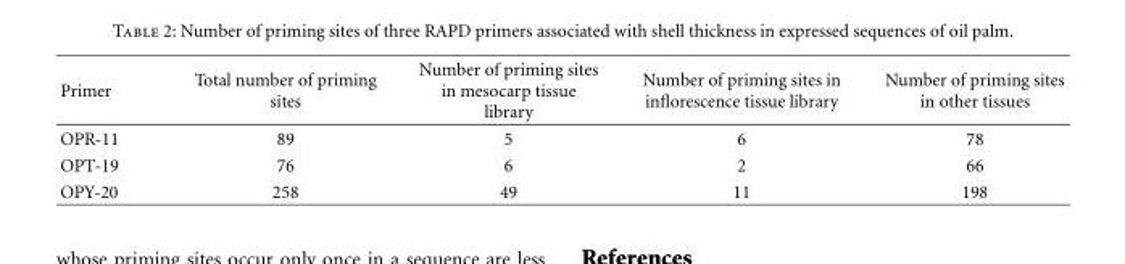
<table><thead><tr><td>Primer</td><td>Total number of priming sites</td><td>Number of priming sites in mesocarp tissue library</td><td>Number of priming sites in inflorescence tissue library</td><td>Number of priming sites in other tissues</td></tr></thead><tbody><tr><td>OPR-11</td><td>89</td><td>5</td><td>6</td><td>78</td></tr><tr><td>OPT-19</td><td>76</td><td>6</td><td>2</td><td>66</td></tr><tr><td>OPY-20</td><td>258</td><td>49</td><td>11</td><td>198</td></tr></tbody></table>